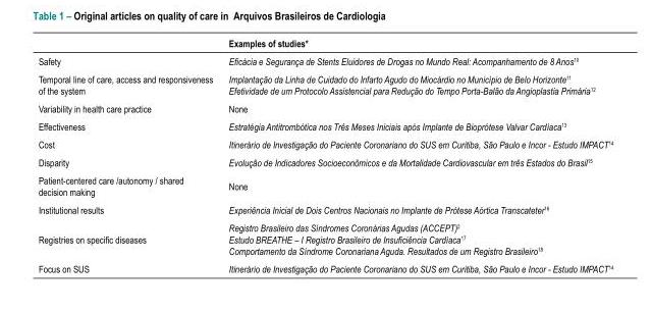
<table><thead><tr><td></td><td>Examples of studies*</td></tr></thead><tbody><tr><td>Safety</td><td>Eficácia e Segurança de Stents Eluidores de Drogas no Mundo Real: Acompanhamento de 8 Anos<sup>10</sup></td></tr><tr><td rowspan="2">Temporal line of care, access and responsiveness of the system</td><td>Implantação da Linha de Cuidado do Infarto Agudo do Miocárdio no Município de Belo Horizonte<sup>11</sup></td></tr><tr><td>Efetividade de um Protocolo Assistencial para Redução do Tempo Porta-Balão da Angioplastia Primária<sup>12</sup></td></tr><tr><td>Variability in health care practice</td><td>None</td></tr><tr><td>Effectiveness</td><td>Estratégia Antitrombótica nos Três Meses Iniciais após Implante de Bioprótese Valvar Cardíaca<sup>13</sup></td></tr><tr><td>Cost</td><td>Itinerário de Investigação do Paciente Coronariano do SUS em Curitiba, São Paulo e Incor - Estudo IMPACT<sup>14</sup></td></tr><tr><td>Disparity</td><td>Evolução de Indicadores Socioeconômicos e da Mortalidade Cardiovascular em três Estados do Brasil15</td></tr><tr><td>Patient-centered care /autonomy / shared decision making</td><td>None</td></tr><tr><td>Institutional results</td><td>Experiência Inicial de Dois Centros Nacionais no Implante de Prótese Aórtica Transcateter<sup>16</sup></td></tr><tr><td rowspan="3">Registries on specific diseases</td><td>Registro Brasileiro das Síndromes Coronárias Agudas (ACCEPT)2</td></tr><tr><td>Estudo BREATHE – I Registro Brasileiro de Insuficiência Cardíaca17</td></tr><tr><td>Comportamento da Síndrome Coronariana Aguda. Resultados de um Registro Brasileiro<sup>18</sup></td></tr><tr><td>Focus on SUS</td><td>Itinerário de Investigação do Paciente Coronariano do SUS em Curitiba, São Paulo e Incor - Estudo IMPACT<sup>14</sup></td></tr></tbody></table>